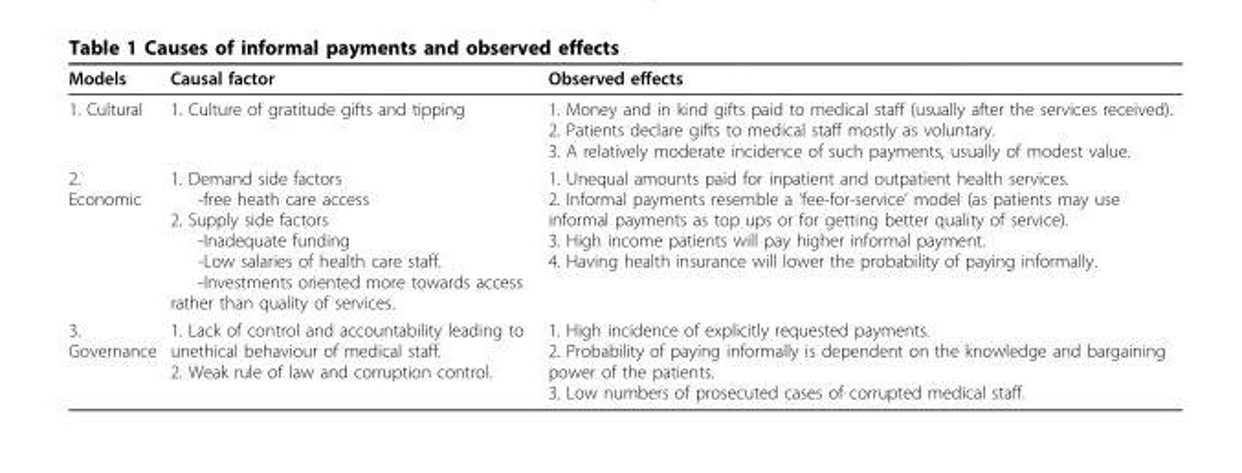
<table><thead><tr><td>Models</td><td>Causal factor</td><td>Observed effects</td></tr></thead><tbody><tr><td>1. Cultural</td><td>1. Culture of gratitude gifts and tipping</td><td>1. Money and in kind gifts paid to medical staff (usually after the services received). 2. Patients declare gifts to medical staff mostly as voluntary. 3. A relatively moderate incidence of such payments, usually of modest value.</td></tr><tr><td>2. Economic</td><td>1. Demand side factors -free heath care access 2. Supply side factors -Inadequate funding -Low salaries of health care staff. -Investments oriented more towards access rather than quality of services.</td><td>1. Unequal amounts paid for inpatient and outpatient health services. 2. Informal payments resemble a ‘fee-for-service’ model (as patients may use informal payments as top ups or for getting better quality of service). 3. High income patients will pay higher informal payment. 4. Having health insurance will lower the probability of paying informally.</td></tr><tr><td>3. Governance</td><td>1. Lack of control and accountability leading to unethical behaviour of medical staff. 2. Weak rule of law and corruption control.</td><td>1. High incidence of explicitly requested payments. 2. Probability of paying informally is dependent on the knowledge and bargaining power of the patients. 3. Low numbers of prosecuted cases of corrupted medical staff.</td></tr></tbody></table>